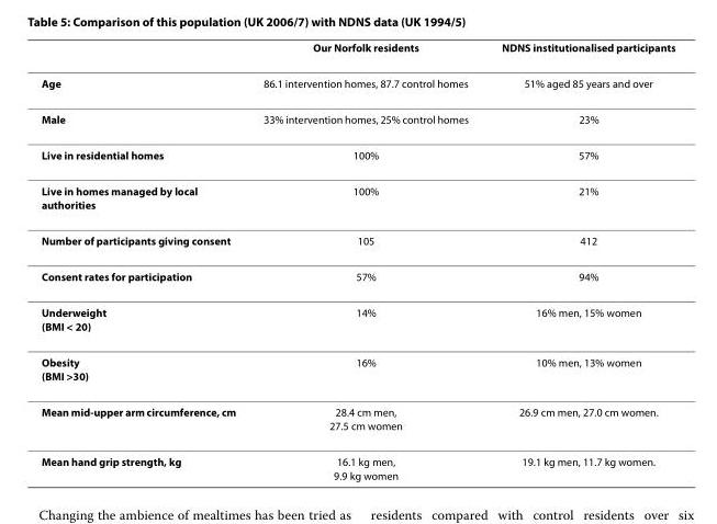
<table><thead><tr><td></td><td>Our Norfolk residents</td><td>NDNS institutionalised participants</td></tr></thead><tbody><tr><td>Age</td><td>86.1 intervention homes, 87.7 control homes</td><td>51% aged 85 years and over</td></tr><tr><td>Male</td><td>33% intervention homes, 25% control homes</td><td>23%</td></tr><tr><td>Live in residential homes</td><td>100%</td><td>57%</td></tr><tr><td>Live in homes managed by local authorities</td><td>100%</td><td>21%</td></tr><tr><td>Number of participants giving consent</td><td>105</td><td>412</td></tr><tr><td>Consent rates for participation</td><td>57%</td><td>94%</td></tr><tr><td>Underweight (BMI &lt; 20)</td><td>14%</td><td>16% men, 15% women</td></tr><tr><td>Obesity (BMI &gt;30)</td><td>16%</td><td>10% men, 13% women</td></tr><tr><td>Mean mid-upper arm circumference, cm</td><td>28.4 cm men, 27.5 cm women</td><td>26.9 cm men, 27.0 cm women.</td></tr><tr><td>Mean hand grip strength, kg</td><td>16.1 kg men, 9.9 kg women</td><td>19.1 kg men, 11.7 kg women.</td></tr></tbody></table>